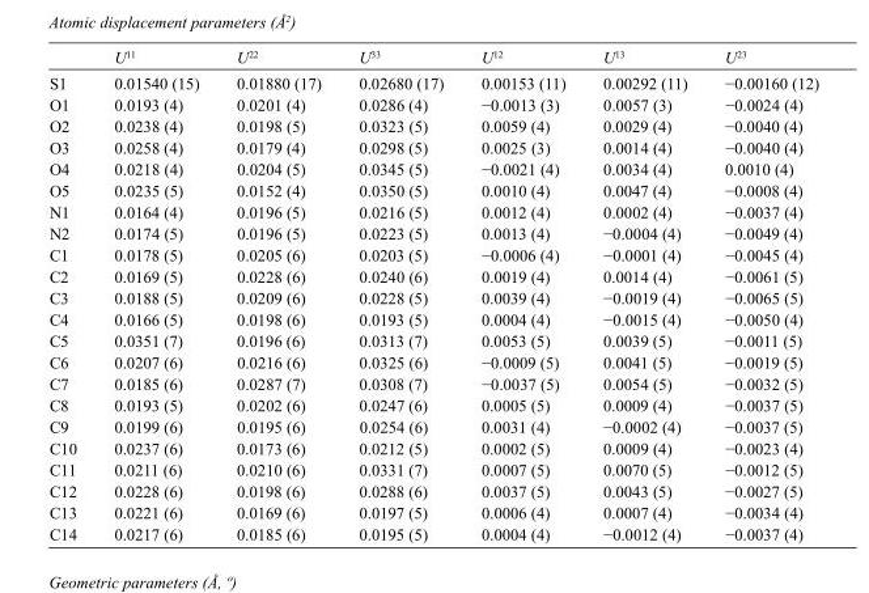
<table><thead><tr><td></td><td>U<sup>11</sup></td><td>U<sup>22</sup></td><td>U<sup>33</sup></td><td>U<sup>12</sup></td><td>U<sup>13</sup></td><td>U<sup>23</sup></td></tr></thead><tbody><tr><td>S1</td><td>0.01540 (15)</td><td>0.01880 (17)</td><td>0.02680 (17)</td><td>0.00153 (11)</td><td>0.00292 (11)</td><td>−0.00160 (12)</td></tr><tr><td>O1</td><td>0.0193 (4)</td><td>0.0201 (4)</td><td>0.0286 (4)</td><td>−0.0013 (3)</td><td>0.0057 (3)</td><td>−0.0024 (4)</td></tr><tr><td>O2</td><td>0.0238 (4)</td><td>0.0198 (5)</td><td>0.0323 (5)</td><td>0.0059 (4)</td><td>0.0029 (4)</td><td>−0.0040 (4)</td></tr><tr><td>O3</td><td>0.0258 (4)</td><td>0.0179 (4)</td><td>0.0298 (5)</td><td>0.0025 (3)</td><td>0.0014 (4)</td><td>−0.0040 (4)</td></tr><tr><td>O4</td><td>0.0218 (4)</td><td>0.0204 (5)</td><td>0.0345 (5)</td><td>−0.0021 (4)</td><td>0.0034 (4)</td><td>0.0010 (4)</td></tr><tr><td>O5</td><td>0.0235 (5)</td><td>0.0152 (4)</td><td>0.0350 (5)</td><td>0.0010 (4)</td><td>0.0047 (4)</td><td>−0.0008 (4)</td></tr><tr><td>N1</td><td>0.0164 (4)</td><td>0.0196 (5)</td><td>0.0216 (5)</td><td>0.0012 (4)</td><td>0.0002 (4)</td><td>−0.0037 (4)</td></tr><tr><td>N2</td><td>0.0174 (5)</td><td>0.0196 (5)</td><td>0.0223 (5)</td><td>0.0013 (4)</td><td>−0.0004 (4)</td><td>−0.0049 (4)</td></tr><tr><td>C1</td><td>0.0178 (5)</td><td>0.0205 (6)</td><td>0.0203 (5)</td><td>−0.0006 (4)</td><td>−0.0001 (4)</td><td>−0.0045 (4)</td></tr><tr><td>C2</td><td>0.0169 (5)</td><td>0.0228 (6)</td><td>0.0240 (6)</td><td>0.0019 (4)</td><td>0.0014 (4)</td><td>−0.0061 (5)</td></tr><tr><td>C3</td><td>0.0188 (5)</td><td>0.0209 (6)</td><td>0.0228 (5)</td><td>0.0039 (4)</td><td>−0.0019 (4)</td><td>−0.0065 (5)</td></tr><tr><td>C4</td><td>0.0166 (5)</td><td>0.0198 (6)</td><td>0.0193 (5)</td><td>0.0004 (4)</td><td>−0.0015 (4)</td><td>−0.0050 (4)</td></tr><tr><td>C5</td><td>0.0351 (7)</td><td>0.0196 (6)</td><td>0.0313 (7)</td><td>0.0053 (5)</td><td>0.0039 (5)</td><td>−0.0011 (5)</td></tr><tr><td>C6</td><td>0.0207 (6)</td><td>0.0216 (6)</td><td>0.0325 (6)</td><td>−0.0009 (5)</td><td>0.0041 (5)</td><td>−0.0019 (5)</td></tr><tr><td>C7</td><td>0.0185 (6)</td><td>0.0287 (7)</td><td>0.0308 (7)</td><td>−0.0037 (5)</td><td>0.0054 (5)</td><td>−0.0032 (5)</td></tr><tr><td>C8</td><td>0.0193 (5)</td><td>0.0202 (6)</td><td>0.0247 (6)</td><td>0.0005 (5)</td><td>0.0009 (4)</td><td>−0.0037 (5)</td></tr><tr><td>C9</td><td>0.0199 (6)</td><td>0.0195 (6)</td><td>0.0254 (6)</td><td>0.0031 (4)</td><td>−0.0002 (4)</td><td>−0.0037 (5)</td></tr><tr><td>C10</td><td>0.0237 (6)</td><td>0.0173 (6)</td><td>0.0212 (5)</td><td>0.0002 (5)</td><td>0.0009 (4)</td><td>−0.0023 (4)</td></tr><tr><td>C11</td><td>0.0211 (6)</td><td>0.0210 (6)</td><td>0.0331 (7)</td><td>0.0007 (5)</td><td>0.0070 (5)</td><td>−0.0012 (5)</td></tr><tr><td>C12</td><td>0.0228 (6)</td><td>0.0198 (6)</td><td>0.0288 (6)</td><td>0.0037 (5)</td><td>0.0043 (5)</td><td>−0.0027 (5)</td></tr><tr><td>C13</td><td>0.0221 (6)</td><td>0.0169 (6)</td><td>0.0197 (5)</td><td>0.0006 (4)</td><td>0.0007 (4)</td><td>−0.0034 (4)</td></tr><tr><td>C14</td><td>0.0217 (6)</td><td>0.0185 (6)</td><td>0.0195 (5)</td><td>0.0004 (4)</td><td>−0.0012 (4)</td><td>−0.0037 (4)</td></tr></tbody></table>